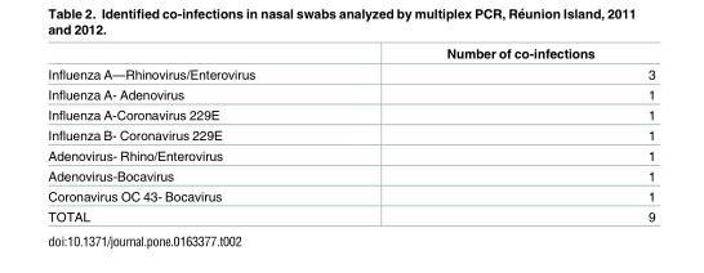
<table><thead><tr><td></td><td>Number of co-infections</td></tr></thead><tbody><tr><td>Influenza A—Rhinovirus/Enterovirus</td><td>3</td></tr><tr><td>Influenza A- Adenovirus</td><td>1</td></tr><tr><td>Influenza A-Coronavirus 229E</td><td>1</td></tr><tr><td>Influenza B- Coronavirus 229E</td><td>1</td></tr><tr><td>Adenovirus- Rhino/Enterovirus</td><td>1</td></tr><tr><td>Adenovirus-Bocavirus</td><td>1</td></tr><tr><td>Coronavirus OC 43- Bocavirus</td><td>1</td></tr><tr><td>TOTAL</td><td>9</td></tr></tbody></table>